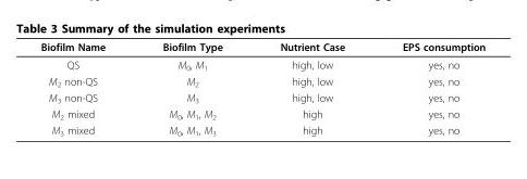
<table><thead><tr><td>Biofilm Name</td><td>Biofilm Type</td><td>Nutrient Case</td><td>EPS consumption</td></tr></thead><tbody><tr><td>QS</td><td>M<sub>0</sub>, M<sub>1</sub></td><td>high, low</td><td>yes, no</td></tr><tr><td>M<sub>2</sub> non-QS</td><td>M<sub>2</sub></td><td>high, low</td><td>yes, no</td></tr><tr><td>M<sub>3</sub> non-QS</td><td>M<sub>3</sub></td><td>high, low</td><td>yes, no</td></tr><tr><td>M<sub>2</sub> mixed</td><td>M<sub>0</sub>, M<sub>1</sub>, M<sub>2</sub></td><td>high</td><td>yes, no</td></tr><tr><td>M<sub>3</sub> mixed</td><td>M<sub>0</sub>, M<sub>1</sub>, M<sub>3</sub></td><td>high</td><td>yes, no</td></tr></tbody></table>